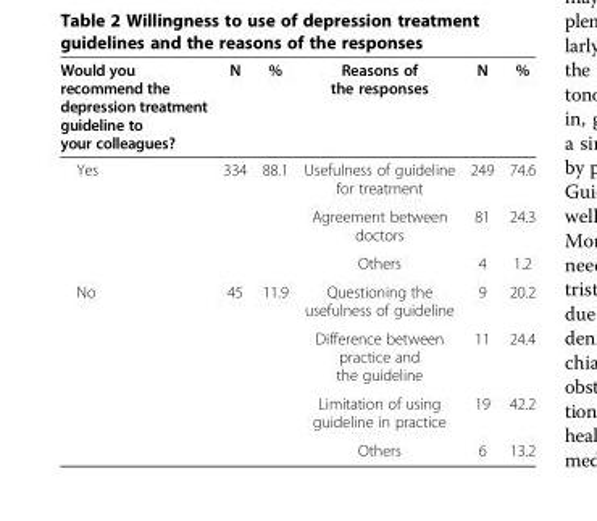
<table><thead><tr><td>Would you recommend the depression treatment guideline to your colleagues?</td><td>N</td><td>%</td><td>Reasons of the responses</td><td>N</td><td>%</td></tr></thead><tbody><tr><td rowspan="3">Yes</td><td>334</td><td>88.1</td><td>Usefulness of guideline for treatment</td><td>249</td><td>74.6</td></tr><tr><td></td><td></td><td>Agreement between doctors</td><td>81</td><td>24.3</td></tr><tr><td></td><td></td><td>Others</td><td>4</td><td>1.2</td></tr><tr><td rowspan="4">No</td><td>45</td><td>11.9</td><td>Questioning the usefulness of guideline</td><td>9</td><td>20.2</td></tr><tr><td></td><td></td><td>Difference between practice and the guideline</td><td>11</td><td>24.4</td></tr><tr><td></td><td></td><td>Limitation of using guideline in practice</td><td>19</td><td>42.2</td></tr><tr><td></td><td></td><td>Others</td><td>6</td><td>13.2</td></tr></tbody></table>